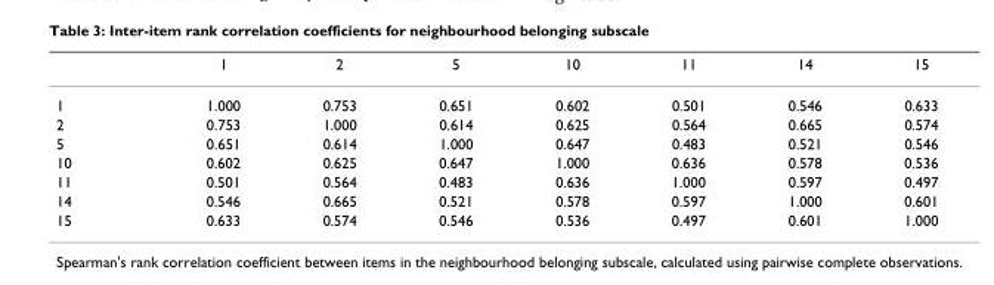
<table><thead><tr><td></td><td>1</td><td>2</td><td>5</td><td>10</td><td>11</td><td>14</td><td>15</td></tr></thead><tbody><tr><td>1</td><td>1.000</td><td>0.753</td><td>0.651</td><td>0.602</td><td>0.501</td><td>0.546</td><td>0.633</td></tr><tr><td>2</td><td>0.753</td><td>1.000</td><td>0.614</td><td>0.625</td><td>0.564</td><td>0.665</td><td>0.574</td></tr><tr><td>5</td><td>0.651</td><td>0.614</td><td>1.000</td><td>0.647</td><td>0.483</td><td>0.521</td><td>0.546</td></tr><tr><td>10</td><td>0.602</td><td>0.625</td><td>0.647</td><td>1.000</td><td>0.636</td><td>0.578</td><td>0.536</td></tr><tr><td>11</td><td>0.501</td><td>0.564</td><td>0.483</td><td>0.636</td><td>1.000</td><td>0.597</td><td>0.497</td></tr><tr><td>14</td><td>0.546</td><td>0.665</td><td>0.521</td><td>0.578</td><td>0.597</td><td>1.000</td><td>0.601</td></tr><tr><td>15</td><td>0.633</td><td>0.574</td><td>0.546</td><td>0.536</td><td>0.497</td><td>0.601</td><td>1.000</td></tr></tbody></table>